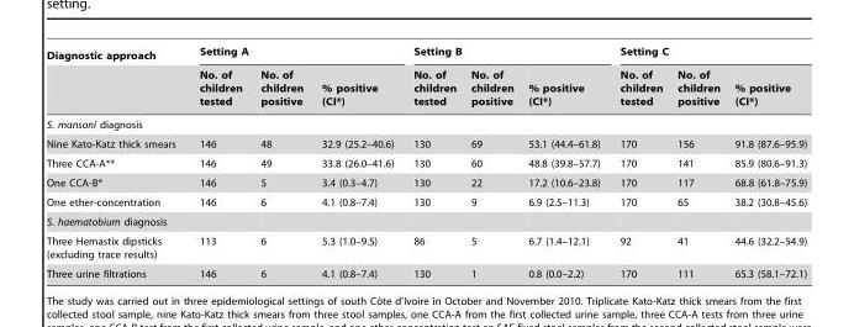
<table><thead><tr><td rowspan="2">Diagnostic approach</td><td colspan="3">Setting A</td><td colspan="3">Setting B</td><td colspan="3">Setting C</td></tr><tr><td>No. of children tested</td><td>No. of children positive</td><td>% positive (CI*)</td><td>No. of children tested</td><td>No. of children positive</td><td>% positive (CI*)</td><td>No. of children tested</td><td>No. of children positive</td><td>% positive (CI*)</td></tr></thead><tbody><tr><td colspan="10">S. mansoni diagnosis</td></tr><tr><td>Nine Kato-Katz thick smears</td><td>146</td><td>48</td><td>32.9 (25.2–40.6)</td><td>130</td><td>69</td><td>53.1 (44.4–61.8)</td><td>170</td><td>156</td><td>91.8 (87.6–95.9)</td></tr><tr><td>Three CCA-A**</td><td>146</td><td>49</td><td>33.8 (26.0–41.6)</td><td>130</td><td>60</td><td>48.8 (39.8–57.7)</td><td>170</td><td>141</td><td>85.9 (80.6–91.3)</td></tr><tr><td>One CCA-B*</td><td>146</td><td>5</td><td>3.4 (0.3–4.7)</td><td>130</td><td>22</td><td>17.2 (10.6–23.8)</td><td>170</td><td>117</td><td>68.8 (61.8–75.9)</td></tr><tr><td>One ether-concentration</td><td>146</td><td>6</td><td>4.1 (0.8–7.4)</td><td>130</td><td>9</td><td>6.9 (2.5–11.3)</td><td>170</td><td>65</td><td>38.2 (30.8–45.6)</td></tr><tr><td colspan="10">S. haematobium diagnosis</td></tr><tr><td>Three Hemastix dipsticks (excluding trace results)</td><td>113</td><td>6</td><td>5.3 (1.0–9.5)</td><td>86</td><td>5</td><td>6.7 (1.4–12.1)</td><td>92</td><td>41</td><td>44.6 (32.2–54.9)</td></tr><tr><td>Three urine filtrations</td><td>146</td><td>6</td><td>4.1 (0.8–7.4)</td><td>130</td><td>1</td><td>0.8 (0.0–2.2)</td><td>170</td><td>111</td><td>65.3 (58.1–72.1)</td></tr></tbody></table>